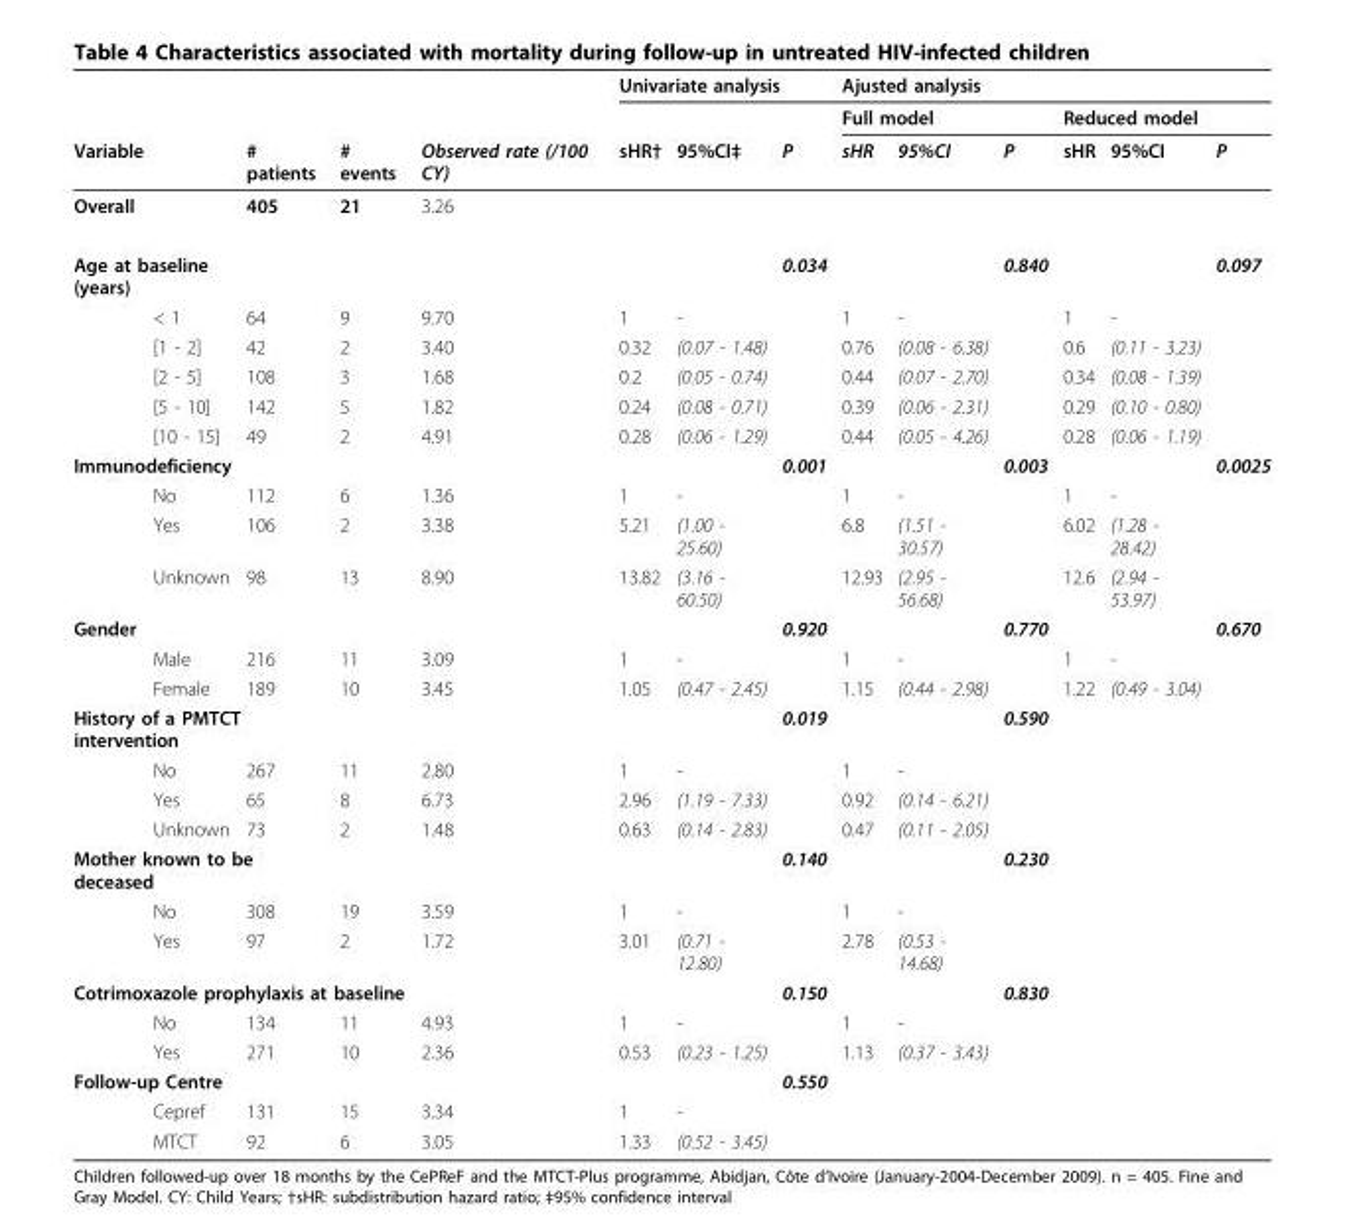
<table><thead><tr><td rowspan="2"></td><td rowspan="2"></td><td rowspan="3"># patients</td><td rowspan="3"># events</td><td rowspan="3">Observed rate (/100 CY)</td><td colspan="3">Univariate analysis</td><td colspan="6">Ajusted analysis</td></tr><tr><td rowspan="2">sHR†</td><td rowspan="2">95%CI‡</td><td rowspan="2">P</td><td colspan="3">Full model</td><td colspan="3">Reduced model</td></tr><tr><td colspan="2">Variable</td><td>sHR</td><td>95%CI</td><td>P</td><td>sHR</td><td>95%CI</td><td>P</td></tr></thead><tbody><tr><td>Overall</td><td></td><td>405</td><td>21</td><td>3.26</td><td></td><td></td><td></td><td></td><td></td><td></td><td></td><td></td><td></td></tr><tr><td colspan="2">Age at baseline (years)</td><td></td><td></td><td></td><td></td><td></td><td>0.034</td><td></td><td></td><td>0.840</td><td></td><td></td><td>0.097</td></tr><tr><td></td><td>&lt; 1</td><td>64</td><td>9</td><td>9.70</td><td>1</td><td>-</td><td></td><td>1</td><td>-</td><td></td><td>1</td><td>-</td><td></td></tr><tr><td></td><td>[1 - 2]</td><td>42</td><td>2</td><td>3.40</td><td>0.32</td><td>(0.07 - 1.48)</td><td></td><td>0.76</td><td>(0.08 - 6.38)</td><td></td><td>0.6</td><td>(0.11 - 3.23)</td><td></td></tr><tr><td></td><td>[2 - 5]</td><td>108</td><td>3</td><td>1.68</td><td>0.2</td><td>(0.05 - 0.74)</td><td></td><td>0.44</td><td>(0.07 - 2.70)</td><td></td><td>0.34</td><td>(0.08 - 1.39)</td><td></td></tr><tr><td></td><td>[5 - 10]</td><td>142</td><td>5</td><td>1.82</td><td>0.24</td><td>(0.08 - 0.71)</td><td></td><td>0.39</td><td>(0.06 - 2.31)</td><td></td><td>0.29</td><td>(0.10 - 0.80)</td><td></td></tr><tr><td></td><td>[10 - 15]</td><td>49</td><td>2</td><td>4.91</td><td>0.28</td><td>(0.06 - 1.29)</td><td></td><td>0.44</td><td>(0.05 - 4.26)</td><td></td><td>0.28</td><td>(0.06 - 1.19)</td><td></td></tr><tr><td colspan="2">Immunodeficiency</td><td></td><td></td><td></td><td></td><td></td><td>0.001</td><td></td><td></td><td>0.003</td><td></td><td></td><td>0.0025</td></tr><tr><td></td><td>No</td><td>112</td><td>6</td><td>1.36</td><td>1</td><td>-</td><td></td><td>1</td><td>-</td><td></td><td>1</td><td>-</td><td></td></tr><tr><td></td><td>Yes</td><td>106</td><td>2</td><td>3.38</td><td>5.21</td><td>(1.00 - 25.60)</td><td></td><td>6.8</td><td>(1.51 - 30.57)</td><td></td><td>6.02</td><td>(1.28 - 28.42)</td><td></td></tr><tr><td></td><td>Unknown</td><td>98</td><td>13</td><td>8.90</td><td>13.82</td><td>(3.16 - 60.50)</td><td></td><td>12.93</td><td>(2.95 - 56.68)</td><td></td><td>12.6</td><td>(2.94 - 53.97)</td><td></td></tr><tr><td rowspan="3">Gender</td><td></td><td></td><td></td><td></td><td></td><td></td><td>0.920</td><td></td><td></td><td>0.770</td><td></td><td></td><td>0.670</td></tr><tr><td>Male</td><td>216</td><td>11</td><td>3.09</td><td>1</td><td>-</td><td></td><td>1</td><td>-</td><td></td><td>1</td><td>-</td><td></td></tr><tr><td>Female</td><td>189</td><td>10</td><td>3.45</td><td>1.05</td><td>(0.47 - 2.45)</td><td></td><td>1.15</td><td>(0.44 - 2.98)</td><td></td><td>1.22</td><td>(0.49 - 3.04)</td><td></td></tr><tr><td colspan="3">History of a PMTCT intervention</td><td></td><td></td><td></td><td></td><td>0.019</td><td></td><td></td><td>0.590</td><td></td><td></td><td></td></tr><tr><td></td><td>No</td><td>267</td><td>11</td><td>2.80</td><td>1</td><td>-</td><td></td><td>1</td><td>-</td><td></td><td></td><td></td><td></td></tr><tr><td></td><td>Yes</td><td>65</td><td>8</td><td>6.73</td><td>2.96</td><td>(1.19 - 7.33)</td><td></td><td>0.92</td><td>(0.14 - 6.21)</td><td></td><td></td><td></td><td></td></tr><tr><td></td><td>Unknown</td><td>73</td><td>2</td><td>1.48</td><td>0.63</td><td>(0.14 - 2.83)</td><td></td><td>0.47</td><td>(0.11 - 2.05)</td><td></td><td></td><td></td><td></td></tr><tr><td colspan="3">Mother known to be deceased</td><td></td><td></td><td></td><td></td><td>0.140</td><td></td><td></td><td>0.230</td><td></td><td></td><td></td></tr><tr><td></td><td>No</td><td>308</td><td>19</td><td>3.59</td><td>1</td><td>-</td><td></td><td>1</td><td>-</td><td></td><td></td><td></td><td></td></tr><tr><td></td><td>Yes</td><td>97</td><td>2</td><td>1.72</td><td>3.01</td><td>(0.71 - 12.80)</td><td></td><td>2.78</td><td>(0.53 - 14.68)</td><td></td><td></td><td></td><td></td></tr><tr><td colspan="4">Cotrimoxazole prophylaxis at baseline</td><td></td><td></td><td></td><td>0.150</td><td></td><td></td><td>0.830</td><td></td><td></td><td></td></tr><tr><td></td><td>No</td><td>134</td><td>11</td><td>4.93</td><td>1</td><td>-</td><td></td><td>1</td><td>-</td><td></td><td></td><td></td><td></td></tr><tr><td></td><td>Yes</td><td>271</td><td>10</td><td>2.36</td><td>0.53</td><td>(0.23 - 1.25)</td><td></td><td>1.13</td><td>(0.37 - 3.43)</td><td></td><td></td><td></td><td></td></tr><tr><td colspan="2">Follow-up Centre</td><td></td><td></td><td></td><td></td><td></td><td>0.550</td><td></td><td></td><td></td><td></td><td></td><td></td></tr><tr><td></td><td>Cepref</td><td>131</td><td>15</td><td>3.34</td><td>1</td><td>-</td><td></td><td></td><td></td><td></td><td></td><td></td><td></td></tr><tr><td></td><td>MTCT</td><td>92</td><td>6</td><td>3.05</td><td>1.33</td><td>(0.52 - 3.45)</td><td></td><td></td><td></td><td></td><td></td><td></td><td></td></tr></tbody></table>